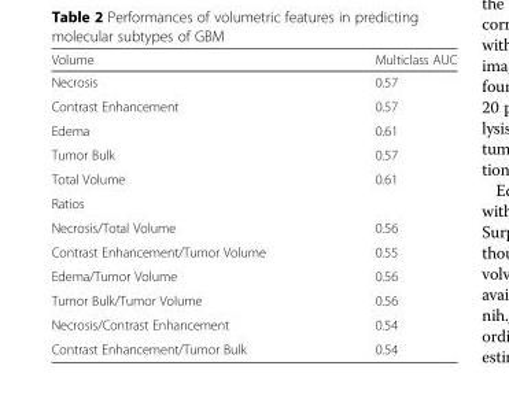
<table><thead><tr><td>Volume</td><td>Multiclass AUC</td></tr></thead><tbody><tr><td>Necrosis</td><td>0.57</td></tr><tr><td>Contrast Enhancement</td><td>0.57</td></tr><tr><td>Edema</td><td>0.61</td></tr><tr><td>Tumor Bulk</td><td>0.57</td></tr><tr><td>Total Volume</td><td>0.61</td></tr><tr><td colspan="2">Ratios</td></tr><tr><td>Necrosis/Total Volume</td><td>0.56</td></tr><tr><td>Contrast Enhancement/Tumor Volume</td><td>0.55</td></tr><tr><td>Edema/Tumor Volume</td><td>0.56</td></tr><tr><td>Tumor Bulk/Tumor Volume</td><td>0.56</td></tr><tr><td>Necrosis/Contrast Enhancement</td><td>0.54</td></tr><tr><td>Contrast Enhancement/Tumor Bulk</td><td>0.54</td></tr></tbody></table>